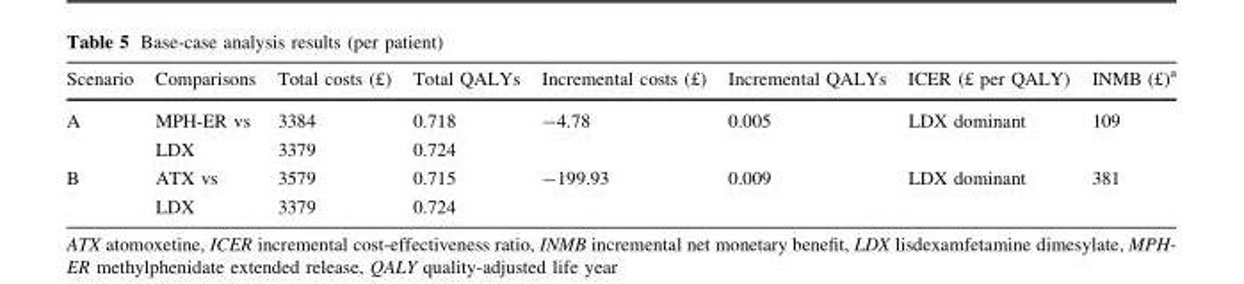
<table><thead><tr><td>Scenario</td><td>Comparisons</td><td>Total costs (£)</td><td>Total QALYs</td><td>Incremental costs (£)</td><td>Incremental QALYs</td><td>ICER (£ per QALY)</td><td>INMB (£)<sup>a</sup></td></tr></thead><tbody><tr><td rowspan="2">A</td><td>MPH-ER vs</td><td>3384</td><td>0.718</td><td rowspan="2">-4.78</td><td rowspan="2">0.005</td><td rowspan="2">LDX dominant</td><td rowspan="2">109</td></tr><tr><td>LDX</td><td>3379</td><td>0.724</td></tr><tr><td rowspan="2">B</td><td>ATX vs</td><td>3579</td><td>0.715</td><td rowspan="2">-199.93</td><td rowspan="2">0.009</td><td rowspan="2">LDX dominant</td><td rowspan="2">381</td></tr><tr><td>LDX</td><td>3379</td><td>0.724</td></tr></tbody></table>